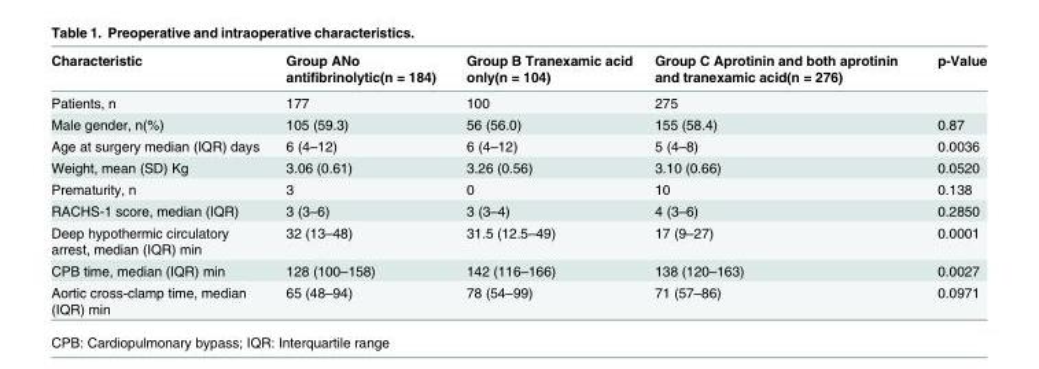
<table><thead><tr><td>Characteristic</td><td>Group ANo antifibrinolytic(n = 184)</td><td>Group B Tranexamic acid only(n = 104)</td><td>Group C Aprotinin and both aprotinin and tranexamic acid(n = 276)</td><td>p-Value</td></tr></thead><tbody><tr><td>Patients, n</td><td>177</td><td>100</td><td>275</td><td></td></tr><tr><td>Male gender, n(%)</td><td>105 (59.3)</td><td>56 (56.0)</td><td>155 (58.4)</td><td>0.87</td></tr><tr><td>Age at surgery median (IQR) days</td><td>6 (4–12)</td><td>6 (4–12)</td><td>5 (4–8)</td><td>0.0036</td></tr><tr><td>Weight, mean (SD) Kg</td><td>3.06 (0.61)</td><td>3.26 (0.56)</td><td>3.10 (0.66)</td><td>0.0520</td></tr><tr><td>Prematurity, n</td><td>3</td><td>0</td><td>10</td><td>0.138</td></tr><tr><td>RACHS-1 score, median (IQR)</td><td>3 (3–6)</td><td>3 (3–4)</td><td>4 (3–6)</td><td>0.2850</td></tr><tr><td>Deep hypothermic circulatory arrest, median (IQR) min</td><td>32 (13–48)</td><td>31.5 (12.5–49)</td><td>17 (9–27)</td><td>0.0001</td></tr><tr><td>CPB time, median (IQR) min</td><td>128 (100–158)</td><td>142 (116–166)</td><td>138 (120–163)</td><td>0.0027</td></tr><tr><td>Aortic cross-clamp time, median (IQR) min</td><td>65 (48–94)</td><td>78 (54–99)</td><td>71 (57–86)</td><td>0.0971</td></tr></tbody></table>